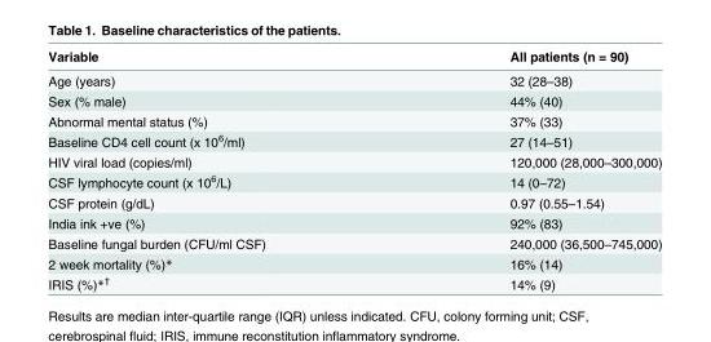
<table><thead><tr><td>Variable</td><td>All patients (n = 90)</td></tr></thead><tbody><tr><td>Age (years)</td><td>32 (28–38)</td></tr><tr><td>Sex (% male)</td><td>44% (40)</td></tr><tr><td>Abnormal mental status (%)</td><td>37% (33)</td></tr><tr><td>Baseline CD4 cell count (x 10<sup>6</sup>/ml)</td><td>27 (14–51)</td></tr><tr><td>HIV viral load (copies/ml)</td><td>120,000 (28,000–300,000)</td></tr><tr><td>CSF lymphocyte count (x 10<sup>6</sup>/L)</td><td>14 (0–72)</td></tr><tr><td>CSF protein (g/dL)</td><td>0.97 (0.55–1.54)</td></tr><tr><td>India ink +ve (%)</td><td>92% (83)</td></tr><tr><td>Baseline fungal burden (CFU/ml CSF)</td><td>240,000 (36,500–745,000)</td></tr><tr><td>2 week mortality (%)*</td><td>16% (14)</td></tr><tr><td>IRIS (%)*<sup>†</sup></td><td>14% (9)</td></tr></tbody></table>